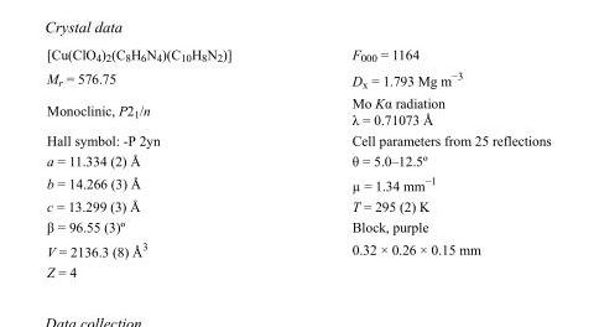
<table><tbody><tr><td>[Cu(ClO<sub>4</sub>)<sub>2</sub>(C<sub>8</sub>H<sub>6</sub>N<sub>4</sub>)(C<sub>10</sub>H<sub>8</sub>N<sub>2</sub>)]</td><td>F<sub>000</sub> = 1164</td></tr><tr><td>M<sub>r</sub> = 576.75</td><td>D<sub>x</sub> = 1.793 Mg m<sup>−3</sup></td></tr><tr><td>Monoclinic, P2<sub>1</sub>/n</td><td>Mo Kα radiation λ = 0.71073 Å</td></tr><tr><td>Hall symbol: -P 2yn</td><td>Cell parameters from 25 reflections</td></tr><tr><td>a = 11.334 (2) Å</td><td>θ = 5.0–12.5º</td></tr><tr><td>b = 14.266 (3) Å</td><td>µ = 1.34 mm<sup>−1</sup></td></tr><tr><td>c = 13.299 (3) Å</td><td>T = 295 (2) K</td></tr><tr><td>β = 96.55 (3)º</td><td>Block, purple</td></tr><tr><td>V = 2136.3 (8) Å<sup>3</sup></td><td>0.32 × 0.26 × 0.15 mm</td></tr><tr><td>Z = 4</td><td></td></tr></tbody></table>